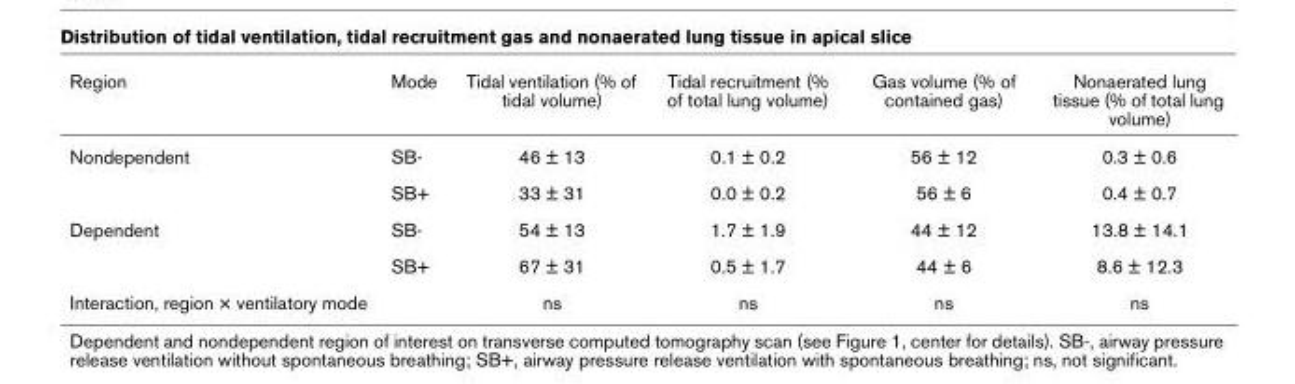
<table><thead><tr><td>Region</td><td>Mode</td><td>Tidal ventilation (% of tidal volume)</td><td>Tidal recruitment (% of total lung volume)</td><td>Gas volume (% of contained gas)</td><td>Nonaerated lung tissue (% of total lung volume)</td></tr></thead><tbody><tr><td rowspan="2">Nondependent</td><td>SB-</td><td>46 ± 13</td><td>0.1 ± 0.2</td><td>56 ± 12</td><td>0.3 ± 0.6</td></tr><tr><td>SB+</td><td>33 ± 31</td><td>0.0 ± 0.2</td><td>56 ± 6</td><td>0.4 ± 0.7</td></tr><tr><td rowspan="2">Dependent</td><td>SB-</td><td>54 ± 13</td><td>1.7 ± 1.9</td><td>44 ± 12</td><td>13.8 ± 14.1</td></tr><tr><td>SB+</td><td>67 ± 31</td><td>0.5 ± 1.7</td><td>44 ± 6</td><td>8.6 ± 12.3</td></tr><tr><td>Interaction, region × ventilatory mode</td><td></td><td>ns</td><td>ns</td><td>ns</td><td>ns</td></tr></tbody></table>